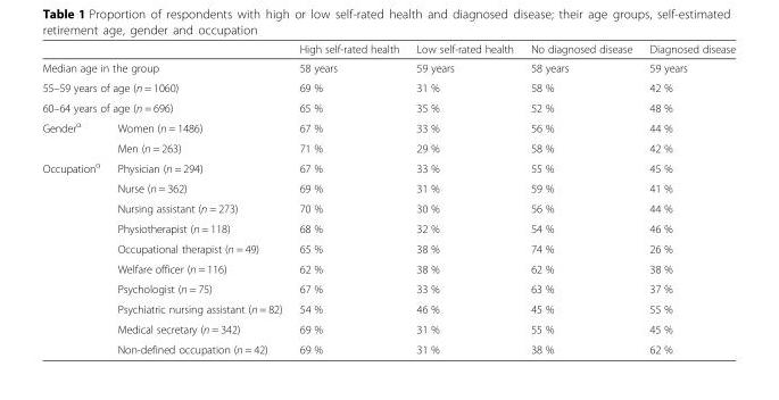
<table><thead><tr><td></td><td></td><td>High self-rated health</td><td>Low self-rated health</td><td>No diagnosed disease</td><td>Diagnosed disease</td></tr></thead><tbody><tr><td colspan="2">Median age in the group</td><td>58 years</td><td>59 years</td><td>58 years</td><td>59 years</td></tr><tr><td colspan="2">55–59 years of age (n = 1060)</td><td>69 %</td><td>31 %</td><td>58 %</td><td>42 %</td></tr><tr><td colspan="2">60–64 years of age (n = 696)</td><td>65 %</td><td>35 %</td><td>52 %</td><td>48 %</td></tr><tr><td rowspan="2">Gender<sup>α</sup></td><td>Women (n = 1486)</td><td>67 %</td><td>33 %</td><td>56 %</td><td>44 %</td></tr><tr><td>Men (n = 263)</td><td>71 %</td><td>29 %</td><td>58 %</td><td>42 %</td></tr><tr><td rowspan="10">Occupation<sup>α</sup></td><td>Physician (n = 294)</td><td>67 %</td><td>33 %</td><td>55 %</td><td>45 %</td></tr><tr><td>Nurse (n = 362)</td><td>69 %</td><td>31 %</td><td>59 %</td><td>41 %</td></tr><tr><td>Nursing assistant (n = 273)</td><td>70 %</td><td>30 %</td><td>56 %</td><td>44 %</td></tr><tr><td>Physiotherapist (n = 118)</td><td>68 %</td><td>32 %</td><td>54 %</td><td>46 %</td></tr><tr><td>Occupational therapist (n = 49)</td><td>65 %</td><td>38 %</td><td>74 %</td><td>26 %</td></tr><tr><td>Welfare officer (n = 116)</td><td>62 %</td><td>38 %</td><td>62 %</td><td>38 %</td></tr><tr><td>Psychologist (n = 75)</td><td>67 %</td><td>33 %</td><td>63 %</td><td>37 %</td></tr><tr><td>Psychiatric nursing assistant (n = 82)</td><td>54 %</td><td>46 %</td><td>45 %</td><td>55 %</td></tr><tr><td>Medical secretary (n = 342)</td><td>69 %</td><td>31 %</td><td>55 %</td><td>45 %</td></tr><tr><td>Non-defined occupation (n = 42)</td><td>69 %</td><td>31 %</td><td>38 %</td><td>62 %</td></tr></tbody></table>